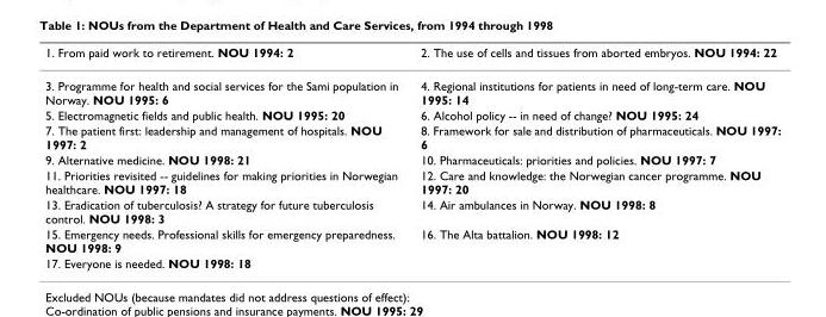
<table><thead><tr><td>1. From paid work to retirement. NOU 1994: 2</td><td>2. The use of cells and tissues from aborted embryos. NOU 1994: 22</td></tr></thead><tbody><tr><td>3. Programme for health and social services for the Sami population in Norway. NOU 1995: 6</td><td>4. Regional institutions for patients in need of long-term care. NOU 1995: 14</td></tr><tr><td>5. Electromagnetic fields and public health. NOU 1995: 20</td><td>6. Alcohol policy -- in need of change? NOU 1995: 24</td></tr><tr><td>7. The patient first: leadership and management of hospitals. NOU 1997: 2</td><td>8. Framework for sale and distribution of pharmaceuticals. NOU 1997: 6</td></tr><tr><td>9. Alternative medicine. NOU 1998: 21</td><td>10. Pharmaceuticals: priorities and policies. NOU 1997: 7</td></tr><tr><td>11. Priorities revisited -- guidelines for making priorities in Norwegian healthcare. NOU 1997: 18</td><td>12. Care and knowledge: the Norwegian cancer programme. NOU 1997: 20</td></tr><tr><td>13. Eradication of tuberculosis? A strategy for future tuberculosis control. NOU 1998: 3</td><td>14. Air ambulances in Norway. NOU 1998: 8</td></tr><tr><td>15. Emergency needs. Professional skills for emergency preparedness. NOU 1998: 9</td><td>16. The Alta battalion. NOU 1998: 12</td></tr><tr><td>17. Everyone is needed. NOU 1998: 18</td><td></td></tr></tbody></table>